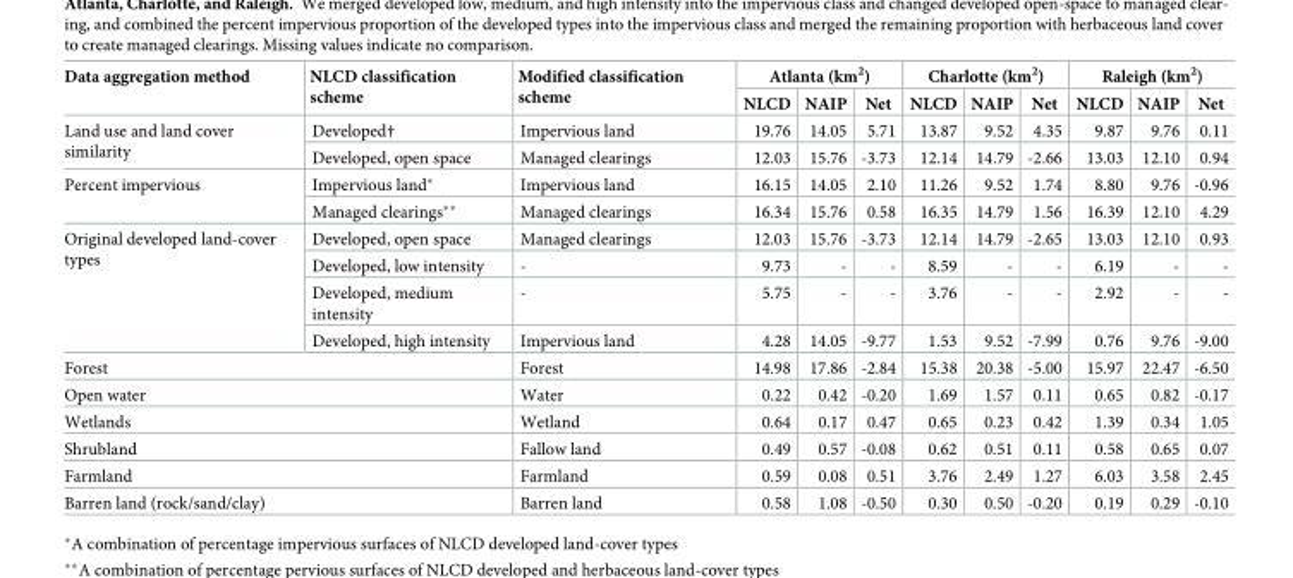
<table><thead><tr><td rowspan="2">Data aggregation method</td><td rowspan="2">NLCD classification scheme</td><td rowspan="2">Modified classification scheme</td><td colspan="3">Atlanta (km<sup>2</sup>)</td><td colspan="3">Charlotte (km<sup>2</sup>)</td><td colspan="3">Raleigh (km<sup>2</sup>)</td></tr><tr><td>NLCD</td><td>NAIP</td><td>Net</td><td>NLCD</td><td>NAIP</td><td>Net</td><td>NLCD</td><td>NAIP</td><td>Net</td></tr></thead><tbody><tr><td rowspan="2">Land use and land cover similarity</td><td>Developed†</td><td>Impervious land</td><td>19.76</td><td>14.05</td><td>5.71</td><td>13.87</td><td>9.52</td><td>4.35</td><td>9.87</td><td>9.76</td><td>0.11</td></tr><tr><td>Developed, open space</td><td>Managed clearings</td><td>12.03</td><td>15.76</td><td>-3.73</td><td>12.14</td><td>14.79</td><td>-2.66</td><td>13.03</td><td>12.10</td><td>0.94</td></tr><tr><td rowspan="2">Percent impervious</td><td>Impervious land*</td><td>Impervious land</td><td>16.15</td><td>14.05</td><td>2.10</td><td>11.26</td><td>9.52</td><td>1.74</td><td>8.80</td><td>9.76</td><td>-0.96</td></tr><tr><td>Managed clearings**</td><td>Managed clearings</td><td>16.34</td><td>15.76</td><td>0.58</td><td>16.35</td><td>14.79</td><td>1.56</td><td>16.39</td><td>12.10</td><td>4.29</td></tr><tr><td rowspan="4">Original developed land-cover types</td><td>Developed, open space</td><td>Managed clearings</td><td>12.03</td><td>15.76</td><td>-3.73</td><td>12.14</td><td>14.79</td><td>-2.65</td><td>13.03</td><td>12.10</td><td>0.93</td></tr><tr><td>Developed, low intensity</td><td>-</td><td>9.73</td><td>-</td><td>-</td><td>8.59</td><td>-</td><td>-</td><td>6.19</td><td>-</td><td>-</td></tr><tr><td>Developed, medium intensity</td><td>-</td><td>5.75</td><td>-</td><td>-</td><td>3.76</td><td>-</td><td>-</td><td>2.92</td><td>-</td><td>-</td></tr><tr><td>Developed, high intensity</td><td>Impervious land</td><td>4.28</td><td>14.05</td><td>-9.77</td><td>1.53</td><td>9.52</td><td>-7.99</td><td>0.76</td><td>9.76</td><td>-9.00</td></tr><tr><td colspan="2">Forest</td><td>Forest</td><td>14.98</td><td>17.86</td><td>-2.84</td><td>15.38</td><td>20.38</td><td>-5.00</td><td>15.97</td><td>22.47</td><td>-6.50</td></tr><tr><td colspan="2">Open water</td><td>Water</td><td>0.22</td><td>0.42</td><td>-0.20</td><td>1.69</td><td>1.57</td><td>0.11</td><td>0.65</td><td>0.82</td><td>-0.17</td></tr><tr><td colspan="2">Wetlands</td><td>Wetland</td><td>0.64</td><td>0.17</td><td>0.47</td><td>0.65</td><td>0.23</td><td>0.42</td><td>1.39</td><td>0.34</td><td>1.05</td></tr><tr><td colspan="2">Shrubland</td><td>Fallow land</td><td>0.49</td><td>0.57</td><td>-0.08</td><td>0.62</td><td>0.51</td><td>0.11</td><td>0.58</td><td>0.65</td><td>0.07</td></tr><tr><td colspan="2">Farmland</td><td>Farmland</td><td>0.59</td><td>0.08</td><td>0.51</td><td>3.76</td><td>2.49</td><td>1.27</td><td>6.03</td><td>3.58</td><td>2.45</td></tr><tr><td colspan="2">Barren land (rock/sand/clay)</td><td>Barren land</td><td>0.58</td><td>1.08</td><td>-0.50</td><td>0.30</td><td>0.50</td><td>-0.20</td><td>0.19</td><td>0.29</td><td>-0.10</td></tr></tbody></table>